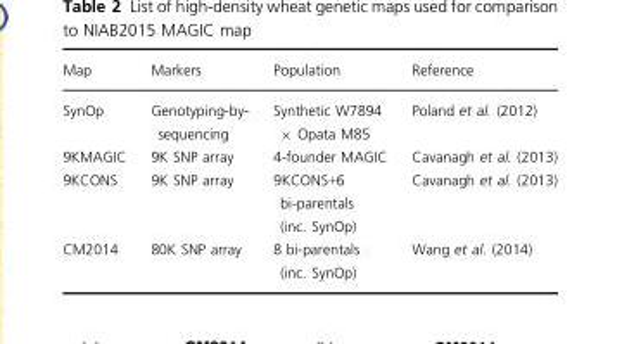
<table><thead><tr><td>Map</td><td>Markers</td><td>Population</td><td>Reference</td></tr></thead><tbody><tr><td>SynOp</td><td>Genotyping-by- sequencing</td><td>Synthetic W7894 × Opata M85</td><td>Poland et al. (2012)</td></tr><tr><td>9KMAGIC</td><td>9K SNP array</td><td>4-founder MAGIC</td><td>Cavanagh et al. (2013)</td></tr><tr><td>9KCONS</td><td>9K SNP array</td><td>9KCONS+6 bi-parentals (inc. SynOp)</td><td>Cavanagh et al. (2013)</td></tr><tr><td>CM2014</td><td>80K SNP array</td><td>8 bi-parentals (inc. SynOp)</td><td>Wang et al. (2014)</td></tr></tbody></table>